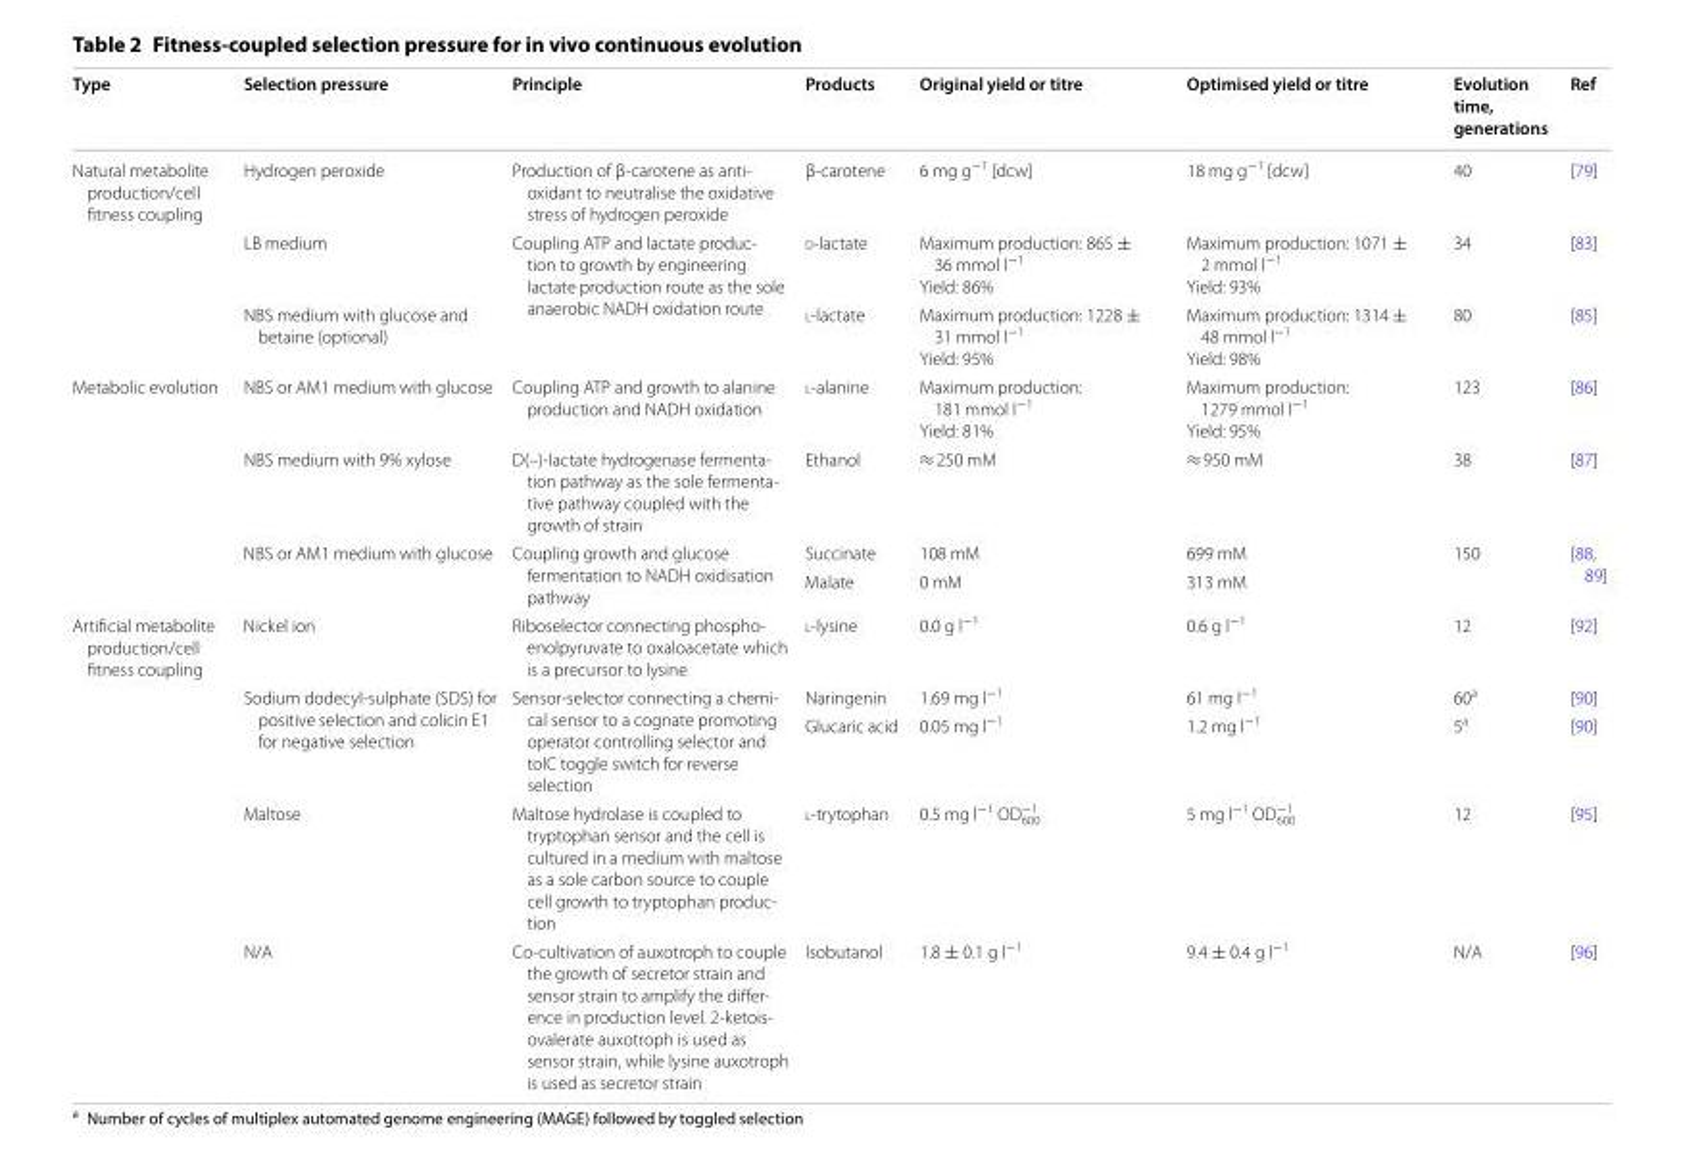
<table><thead><tr><td>Type</td><td>Selection pressure</td><td>Principle</td><td>Products</td><td>Original yield or titre</td><td>Optimised yield or titre</td><td>Evolution time, generations</td><td>Ref</td></tr></thead><tbody><tr><td rowspan="3">Natural metabolite production/cell fitness coupling</td><td>Hydrogen peroxide</td><td>Production of β-carotene as anti- oxidant to neutralise the oxidative stress of hydrogen peroxide</td><td>β-carotene</td><td>6 mg g<sup>−1</sup> [dcw]</td><td>18 mg g<sup>−1</sup> [dcw]</td><td>40</td><td>[79]</td></tr><tr><td>LB medium</td><td rowspan="2">Coupling ATP and lactate produc- tion to growth by engineering lactate production route as the sole anaerobic NADH oxidation route</td><td>d-lactate</td><td>Maximum production: 865 ± 36 mmol l<sup>−1</sup> Yield: 86%</td><td>Maximum production: 1071 ± 2 mmol l<sup>−1</sup> Yield: 93%</td><td>34</td><td>[83]</td></tr><tr><td>NBS medium with glucose and betaine (optional)</td><td>l-lactate</td><td>Maximum production: 1228 ± 31 mmol l<sup>−1</sup> Yield: 95%</td><td>Maximum production: 1314 ± 48 mmol l<sup>−1</sup> Yield: 98%</td><td>80</td><td>[85]</td></tr><tr><td rowspan="4">Metabolic evolution</td><td>NBS or AM1 medium with glucose</td><td>Coupling ATP and growth to alanine production and NADH oxidation</td><td>l-alanine</td><td>Maximum production: 181 mmol l<sup>−1</sup> Yield: 81%</td><td>Maximum production: 1279 mmol l<sup>−1</sup> Yield: 95%</td><td>123</td><td>[86]</td></tr><tr><td>NBS medium with 9% xylose</td><td>D(–)-lactate hydrogenase fermenta- tion pathway as the sole fermenta- tive pathway coupled with the growth of strain</td><td>Ethanol</td><td>≈ 250 mM</td><td>≈ 950 mM</td><td>38</td><td>[87]</td></tr><tr><td rowspan="2">NBS or AM1 medium with glucose</td><td rowspan="2">Coupling growth and glucose fermentation to NADH oxidisation pathway</td><td>Succinate</td><td>108 mM</td><td>699 mM</td><td rowspan="2">150</td><td rowspan="2">[88, 89]</td></tr><tr><td>Malate</td><td>0 mM</td><td>313 mM</td></tr><tr><td rowspan="5">Artificial metabolite production/cell fitness coupling</td><td>Nickel ion</td><td>Riboselector connecting phospho- enolpyruvate to oxaloacetate which is a precursor to lysine</td><td>l-lysine</td><td>0.0 g l<sup>−1</sup></td><td>0.6 g l<sup>−1</sup></td><td>12</td><td>[92]</td></tr><tr><td rowspan="2">Sodium dodecyl-sulphate (SDS) for positive selection and colicin E1 for negative selection</td><td rowspan="2">Sensor-selector connecting a chemi- cal sensor to a cognate promoting operator controlling selector and tolC toggle switch for reverse selection</td><td>Naringenin</td><td>1.69 mg l<sup>−1</sup></td><td>61 mg l<sup>−1</sup></td><td>60<sup>a</sup></td><td>[90]</td></tr><tr><td>Glucaric acid</td><td>0.05 mg l<sup>−1</sup></td><td>1.2 mg l<sup>−1</sup></td><td>5<sup>a</sup></td><td>[90]</td></tr><tr><td>Maltose</td><td>Maltose hydrolase is coupled to tryptophan sensor and the cell is cultured in a medium with maltose as a sole carbon source to couple cell growth to tryptophan produc- tion</td><td>l-trytophan</td><td>0.5 mg l−1 OD−1 600</td><td>5 mg l−1 OD−1 600</td><td>12</td><td>[95]</td></tr><tr><td>N/A</td><td>Co-cultivation of auxotroph to couple the growth of secretor strain and sensor strain to amplify the differ- ence in production level. 2-ketois- ovalerate auxotroph is used as sensor strain, while lysine auxotroph is used as secretor strain</td><td>Isobutanol</td><td>1.8 ± 0.1 g l<sup>−1</sup></td><td>9.4 ± 0.4 g l<sup>−1</sup></td><td>N/A</td><td>[96]</td></tr></tbody></table>